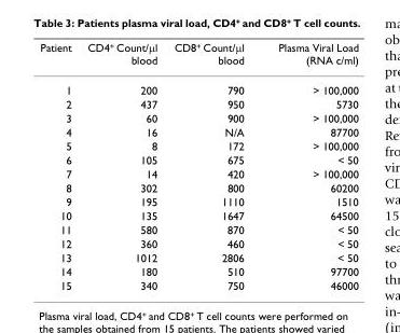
<table><thead><tr><td>Patient</td><td>CD4<sup>+</sup> Count/μl blood</td><td>CD8<sup>+</sup> Count/μl blood</td><td>Plasma Viral Load (RNA c/ml)</td></tr></thead><tbody><tr><td>1</td><td>200</td><td>790</td><td>&gt; 100,000</td></tr><tr><td>2</td><td>437</td><td>950</td><td>5730</td></tr><tr><td>3</td><td>60</td><td>900</td><td>&gt; 100,000</td></tr><tr><td>4</td><td>16</td><td>N/A</td><td>87700</td></tr><tr><td>5</td><td>8</td><td>172</td><td>&gt; 100,000</td></tr><tr><td>6</td><td>105</td><td>675</td><td>&lt; 50</td></tr><tr><td>7</td><td>14</td><td>420</td><td>&gt; 100,000</td></tr><tr><td>8</td><td>302</td><td>800</td><td>60200</td></tr><tr><td>9</td><td>195</td><td>1110</td><td>1510</td></tr><tr><td>10</td><td>135</td><td>1647</td><td>64500</td></tr><tr><td>11</td><td>580</td><td>870</td><td>&lt; 50</td></tr><tr><td>12</td><td>360</td><td>460</td><td>&lt; 50</td></tr><tr><td>13</td><td>1012</td><td>2806</td><td>&lt; 50</td></tr><tr><td>14</td><td>180</td><td>510</td><td>97700</td></tr><tr><td>15</td><td>340</td><td>750</td><td>46000</td></tr></tbody></table>